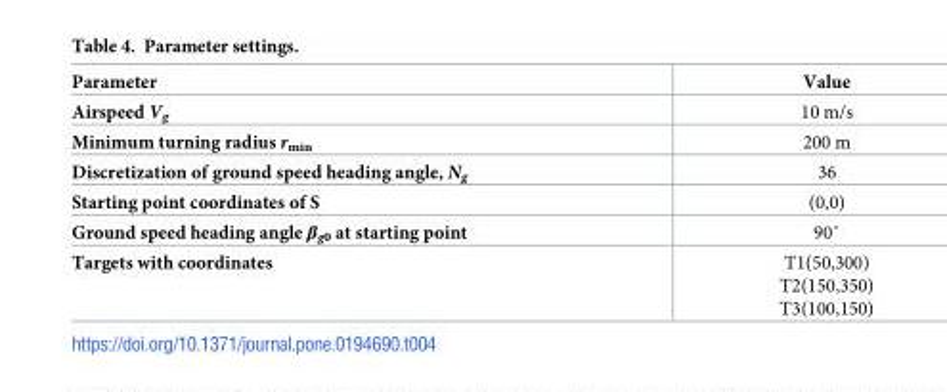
<table><thead><tr><td>Parameter</td><td>Value</td></tr></thead><tbody><tr><td>Airspeed V<sub>g</sub></td><td>10 m/s</td></tr><tr><td>Minimum turning radius r<sub>min</sub></td><td>200 m</td></tr><tr><td>Discretization of ground speed heading angle, N<sub>g</sub></td><td>36</td></tr><tr><td>Starting point coordinates of S</td><td>(0,0)</td></tr><tr><td>Ground speed heading angle β<sub>g0</sub> at starting point</td><td>90˚</td></tr><tr><td>Targets with coordinates</td><td>T1(50,300) T2(150,350) T3(100,150)</td></tr></tbody></table>